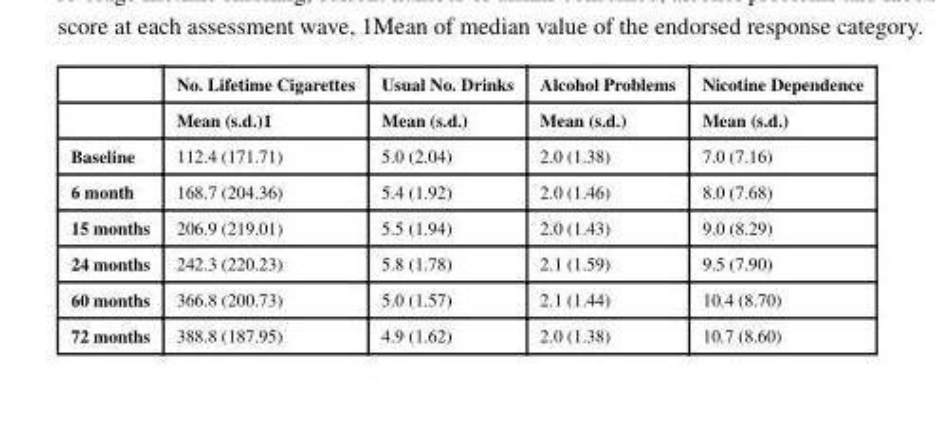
<table><thead><tr><td rowspan="2"></td><td rowspan="2">No. Lifetime Cigarettes Mean (s.d.)1</td><td rowspan="2">Usual No. Drinks Mean (s.d.)</td><td rowspan="2">Alcohol Problems Mean (s.d.)</td><td rowspan="2">Nicotine Dependence Mean (s.d.)</td></tr><tr></tr></thead><tbody><tr><td>Baseline</td><td>112.4 (171.71)</td><td>5.0 (2.04)</td><td>2.0 (1.38)</td><td>7.0 (7.16)</td></tr><tr><td>6 month</td><td>168.7 (204.36)</td><td>5.4 (1.92)</td><td>2.0 (1.46)</td><td>8.0 (7.68)</td></tr><tr><td>15 months</td><td>206.9 (219.01)</td><td>5.5 (1.94)</td><td>2.0 (1.43)</td><td>9.0 (8.29)</td></tr><tr><td>24 months</td><td>242.3 (220.23)</td><td>5.8 (1.78)</td><td>2.1 (1.59)</td><td>9.5 (7.90)</td></tr><tr><td>60 months</td><td>366.8 (200.73)</td><td>5.0 (1.57)</td><td>2.1 (1.44)</td><td>10.4 (8.70)</td></tr><tr><td>72 months</td><td>388.8 (187.95)</td><td>4.9 (1.62)</td><td>2.0 (1.38)</td><td>10.7 (8.60)</td></tr></tbody></table>